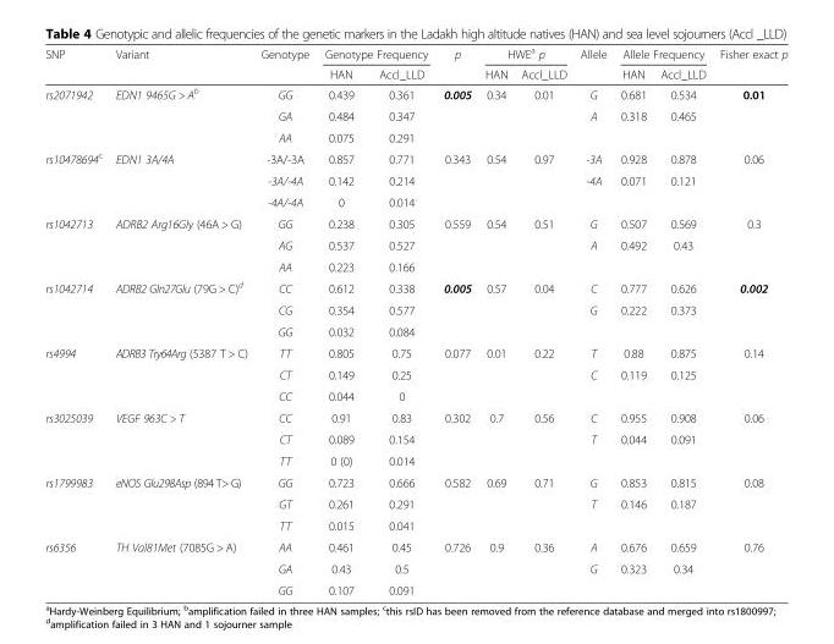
<table><thead><tr><td rowspan="2">SNP</td><td rowspan="2">Variant</td><td rowspan="2">Genotype</td><td colspan="2">Genotype Frequency</td><td rowspan="2">p</td><td colspan="2">HWE<sup>a</sup> p</td><td rowspan="2">Allele</td><td colspan="2">Allele Frequency</td><td rowspan="2">Fisher exact p</td></tr><tr><td>HAN</td><td>Accl_LLD</td><td>HAN</td><td>Accl_LLD</td><td>HAN</td><td>Accl_LLD</td></tr></thead><tbody><tr><td rowspan="3">rs2071942</td><td>EDN1 9465G &gt; A<sup>b</sup></td><td>GG</td><td>0.439</td><td>0.361</td><td>0.005</td><td>0.34</td><td>0.01</td><td>G</td><td>0.681</td><td>0.534</td><td>0.01</td></tr><tr><td></td><td>GA</td><td>0.484</td><td>0.347</td><td></td><td></td><td></td><td>A</td><td>0.318</td><td>0.465</td><td></td></tr><tr><td></td><td>AA</td><td>0.075</td><td>0.291</td><td></td><td></td><td></td><td></td><td></td><td></td><td></td></tr><tr><td rowspan="3">rs10478694<sup>c</sup></td><td>EDN1 3A/4A</td><td>-3A/-3A</td><td>0.857</td><td>0.771</td><td>0.343</td><td>0.54</td><td>0.97</td><td>-3A</td><td>0.928</td><td>0.878</td><td>0.06</td></tr><tr><td></td><td>-3A/-4A</td><td>0.142</td><td>0.214</td><td></td><td></td><td></td><td>-4A</td><td>0.071</td><td>0.121</td><td></td></tr><tr><td></td><td>-4A/-4A</td><td>0</td><td>0.014</td><td></td><td></td><td></td><td></td><td></td><td></td><td></td></tr><tr><td rowspan="3">rs1042713</td><td>ADRB2 Arg16Gly (46A &gt; G)</td><td>GG</td><td>0.238</td><td>0.305</td><td>0.559</td><td>0.54</td><td>0.51</td><td>G</td><td>0.507</td><td>0.569</td><td>0.3</td></tr><tr><td></td><td>AG</td><td>0.537</td><td>0.527</td><td></td><td></td><td></td><td>A</td><td>0.492</td><td>0.43</td><td></td></tr><tr><td></td><td>AA</td><td>0.223</td><td>0.166</td><td></td><td></td><td></td><td></td><td></td><td></td><td></td></tr><tr><td rowspan="3">rs1042714</td><td>ADRB2 Gln27Glu (79G &gt; C)<sup>d</sup></td><td>CC</td><td>0.612</td><td>0.338</td><td>0.005</td><td>0.57</td><td>0.04</td><td>C</td><td>0.777</td><td>0.626</td><td>0.002</td></tr><tr><td></td><td>CG</td><td>0.354</td><td>0.577</td><td></td><td></td><td></td><td>G</td><td>0.222</td><td>0.373</td><td></td></tr><tr><td></td><td>GG</td><td>0.032</td><td>0.084</td><td></td><td></td><td></td><td></td><td></td><td></td><td></td></tr><tr><td rowspan="3">rs4994</td><td>ADRB3 Try64Arg (5387 T &gt; C)</td><td>TT</td><td>0.805</td><td>0.75</td><td>0.077</td><td>0.01</td><td>0.22</td><td>T</td><td>0.88</td><td>0.875</td><td>0.14</td></tr><tr><td></td><td>CT</td><td>0.149</td><td>0.25</td><td></td><td></td><td></td><td>C</td><td>0.119</td><td>0.125</td><td></td></tr><tr><td></td><td>CC</td><td>0.044</td><td>0</td><td></td><td></td><td></td><td></td><td></td><td></td><td></td></tr><tr><td rowspan="3">rs3025039</td><td>VEGF 963C &gt; T</td><td>CC</td><td>0.91</td><td>0.83</td><td>0.302</td><td>0.7</td><td>0.56</td><td>C</td><td>0.955</td><td>0.908</td><td>0.06</td></tr><tr><td></td><td>CT</td><td>0.089</td><td>0.154</td><td></td><td></td><td></td><td>T</td><td>0.044</td><td>0.091</td><td></td></tr><tr><td></td><td>TT</td><td>0 (0)</td><td>0.014</td><td></td><td></td><td></td><td></td><td></td><td></td><td></td></tr><tr><td rowspan="3">rs1799983</td><td>eNOS Glu298Asp (894 T&gt; G)</td><td>GG</td><td>0.723</td><td>0.666</td><td>0.582</td><td>0.69</td><td>0.71</td><td>G</td><td>0.853</td><td>0.815</td><td>0.08</td></tr><tr><td></td><td>GT</td><td>0.261</td><td>0.291</td><td></td><td></td><td></td><td>T</td><td>0.146</td><td>0.187</td><td></td></tr><tr><td></td><td>TT</td><td>0.015</td><td>0.041</td><td></td><td></td><td></td><td></td><td></td><td></td><td></td></tr><tr><td rowspan="3">rs6356</td><td>TH Val81Met (7085G &gt; A)</td><td>AA</td><td>0.461</td><td>0.45</td><td>0.726</td><td>0.9</td><td>0.36</td><td>A</td><td>0.676</td><td>0.659</td><td>0.76</td></tr><tr><td></td><td>GA</td><td>0.43</td><td>0.5</td><td></td><td></td><td></td><td>G</td><td>0.323</td><td>0.34</td><td></td></tr><tr><td></td><td>GG</td><td>0.107</td><td>0.091</td><td></td><td></td><td></td><td></td><td></td><td></td><td></td></tr></tbody></table>